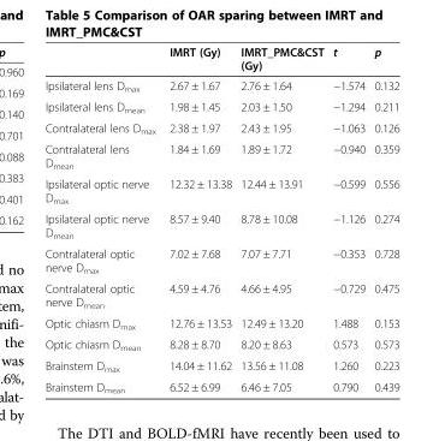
<table><thead><tr><td></td><td>IMRT (Gy)</td><td>IMRT_PMC&amp;CST (Gy)</td><td>t</td><td>p</td></tr></thead><tbody><tr><td>Ipsilateral lens D<sub>max</sub></td><td>2.67 ± 1.67</td><td>2.76 ± 1.64</td><td>−1.574</td><td>0.132</td></tr><tr><td>Ipsilateral lens D<sub>mean</sub></td><td>1.98 ± 1.45</td><td>2.03 ± 1.50</td><td>−1.294</td><td>0.211</td></tr><tr><td>Contralateral lens D<sub>max</sub></td><td>2.38 ± 1.97</td><td>2.43 ± 1.95</td><td>−1.063</td><td>0.126</td></tr><tr><td>Contralateral lens D<sub>mean</sub></td><td>1.84 ± 1.69</td><td>1.89 ± 1.72</td><td>−0.940</td><td>0.359</td></tr><tr><td>Ipsilateral optic nerve D<sub>max</sub></td><td>12.32 ± 13.38</td><td>12.44 ± 13.91</td><td>−0.599</td><td>0.556</td></tr><tr><td>Ipsilateral optic nerve D<sub>mean</sub></td><td>8.57 ± 9.40</td><td>8.78 ± 10.08</td><td>−1.126</td><td>0.274</td></tr><tr><td>Contralateral optic nerve D<sub>max</sub></td><td>7.02 ± 7.68</td><td>7.07 ± 7.71</td><td>−0.353</td><td>0.728</td></tr><tr><td>Contralateral optic nerve D<sub>mean</sub></td><td>4.59 ± 4.76</td><td>4.66 ± 4.95</td><td>−0.729</td><td>0.475</td></tr><tr><td>Optic chiasm D<sub>max</sub></td><td>12.76 ± 13.53</td><td>12.49 ± 13.20</td><td>1.488</td><td>0.153</td></tr><tr><td>Optic chiasm D<sub>mean</sub></td><td>8.28 ± 8.70</td><td>8.20 ± 8.63</td><td>0.573</td><td>0.573</td></tr><tr><td>Brainstem D<sub>max</sub></td><td>14.04 ± 11.62</td><td>13.56 ± 11.08</td><td>1.260</td><td>0.223</td></tr><tr><td>Brainstem D<sub>mean</sub></td><td>6.52 ± 6.99</td><td>6.46 ± 7.05</td><td>0.790</td><td>0.439</td></tr></tbody></table>